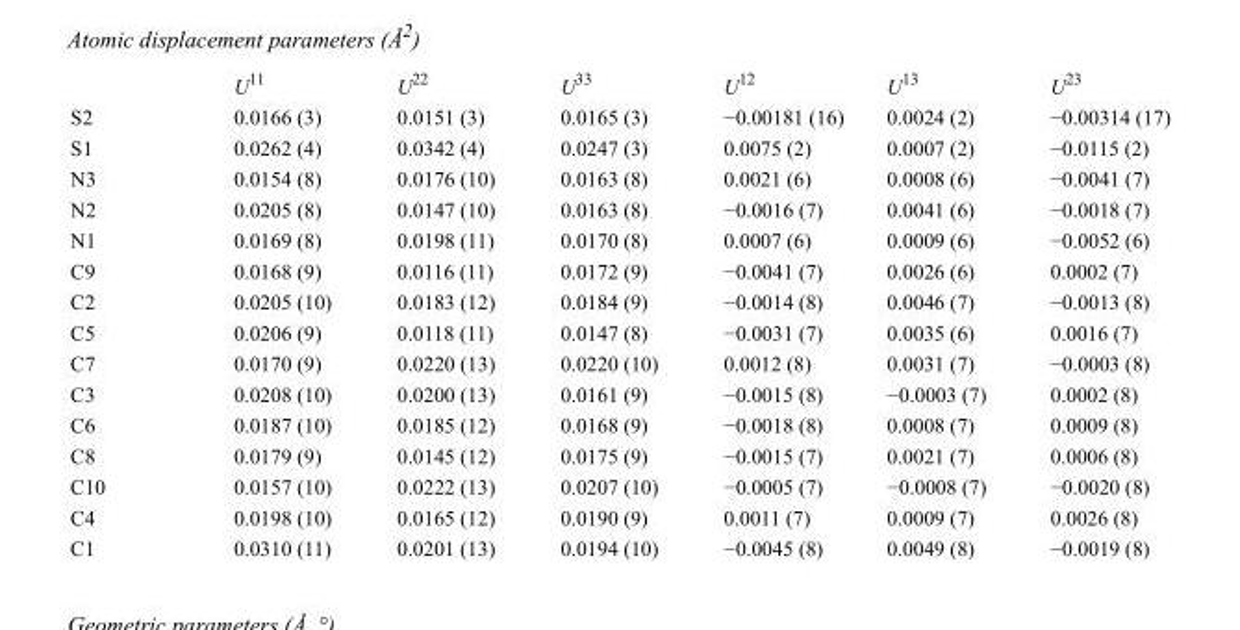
<table><thead><tr><td></td><td>U<sup>11</sup></td><td>U<sup>22</sup></td><td>U<sup>33</sup></td><td>U<sup>12</sup></td><td>U<sup>13</sup></td><td>U<sup>23</sup></td></tr></thead><tbody><tr><td>S2</td><td>0.0166 (3)</td><td>0.0151 (3)</td><td>0.0165 (3)</td><td>−0.00181 (16)</td><td>0.0024 (2)</td><td>−0.00314 (17)</td></tr><tr><td>S1</td><td>0.0262 (4)</td><td>0.0342 (4)</td><td>0.0247 (3)</td><td>0.0075 (2)</td><td>0.0007 (2)</td><td>−0.0115 (2)</td></tr><tr><td>N3</td><td>0.0154 (8)</td><td>0.0176 (10)</td><td>0.0163 (8)</td><td>0.0021 (6)</td><td>0.0008 (6)</td><td>−0.0041 (7)</td></tr><tr><td>N2</td><td>0.0205 (8)</td><td>0.0147 (10)</td><td>0.0163 (8)</td><td>−0.0016 (7)</td><td>0.0041 (6)</td><td>−0.0018 (7)</td></tr><tr><td>N1</td><td>0.0169 (8)</td><td>0.0198 (11)</td><td>0.0170 (8)</td><td>0.0007 (6)</td><td>0.0009 (6)</td><td>−0.0052 (6)</td></tr><tr><td>C9</td><td>0.0168 (9)</td><td>0.0116 (11)</td><td>0.0172 (9)</td><td>−0.0041 (7)</td><td>0.0026 (6)</td><td>0.0002 (7)</td></tr><tr><td>C2</td><td>0.0205 (10)</td><td>0.0183 (12)</td><td>0.0184 (9)</td><td>−0.0014 (8)</td><td>0.0046 (7)</td><td>−0.0013 (8)</td></tr><tr><td>C5</td><td>0.0206 (9)</td><td>0.0118 (11)</td><td>0.0147 (8)</td><td>−0.0031 (7)</td><td>0.0035 (6)</td><td>0.0016 (7)</td></tr><tr><td>C7</td><td>0.0170 (9)</td><td>0.0220 (13)</td><td>0.0220 (10)</td><td>0.0012 (8)</td><td>0.0031 (7)</td><td>−0.0003 (8)</td></tr><tr><td>C3</td><td>0.0208 (10)</td><td>0.0200 (13)</td><td>0.0161 (9)</td><td>−0.0015 (8)</td><td>−0.0003 (7)</td><td>0.0002 (8)</td></tr><tr><td>C6</td><td>0.0187 (10)</td><td>0.0185 (12)</td><td>0.0168 (9)</td><td>−0.0018 (8)</td><td>0.0008 (7)</td><td>0.0009 (8)</td></tr><tr><td>C8</td><td>0.0179 (9)</td><td>0.0145 (12)</td><td>0.0175 (9)</td><td>−0.0015 (7)</td><td>0.0021 (7)</td><td>0.0006 (8)</td></tr><tr><td>C10</td><td>0.0157 (10)</td><td>0.0222 (13)</td><td>0.0207 (10)</td><td>−0.0005 (7)</td><td>−0.0008 (7)</td><td>−0.0020 (8)</td></tr><tr><td>C4</td><td>0.0198 (10)</td><td>0.0165 (12)</td><td>0.0190 (9)</td><td>0.0011 (7)</td><td>0.0009 (7)</td><td>0.0026 (8)</td></tr><tr><td>C1</td><td>0.0310 (11)</td><td>0.0201 (13)</td><td>0.0194 (10)</td><td>−0.0045 (8)</td><td>0.0049 (8)</td><td>−0.0019 (8)</td></tr></tbody></table>